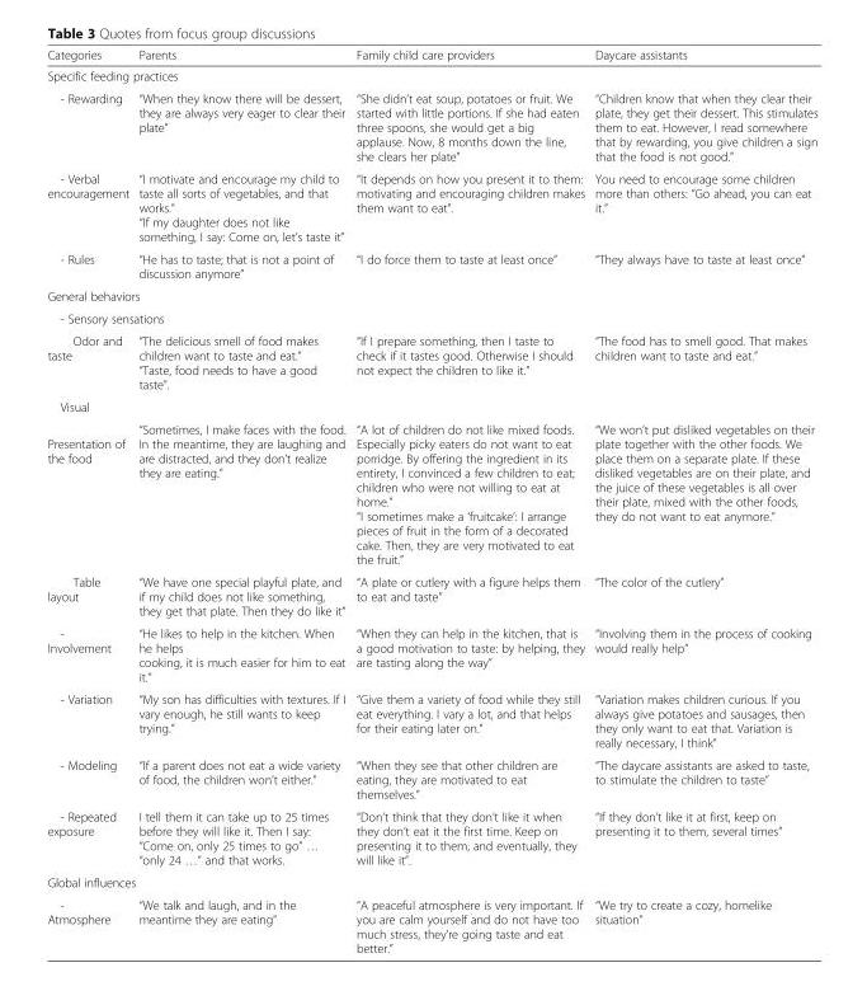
<table><thead><tr><td>Categories</td><td>Parents</td><td>Family child care providers</td><td>Daycare assistants</td></tr></thead><tbody><tr><td colspan="4">Specific feeding practices</td></tr><tr><td>- Rewarding</td><td>“When they know there will be dessert, they are always very eager to clear their plate”</td><td>“She didn’t eat soup, potatoes or fruit. We started with little portions. If she had eaten three spoons, she would get a big applause. Now, 8 months down the line, she clears her plate”</td><td>“Children know that when they clear their plate, they get their dessert. This stimulates them to eat. However, I read somewhere that by rewarding, you give children a sign that the food is not good.”</td></tr><tr><td>- Verbal encouragement</td><td>“I motivate and encourage my child to taste all sorts of vegetables, and that works.” “If my daughter does not like something, I say: Come on, let’s taste it”</td><td>“It depends on how you present it to them: motivating and encouraging children makes them want to eat”.</td><td>You need to encourage some children more than others: “Go ahead, you can eat it.”</td></tr><tr><td>- Rules</td><td>“He has to taste; that is not a point of discussion anymore”</td><td>“I do force them to taste at least once”</td><td>“They always have to taste at least once”</td></tr><tr><td colspan="4">General behaviors</td></tr><tr><td colspan="4">- Sensory sensations</td></tr><tr><td>Odor and taste</td><td>“The delicious smell of food makes children want to taste and eat.” “Taste, food needs to have a good taste”.</td><td>“If I prepare something, then I taste to check if it tastes good. Otherwise I should not expect the children to like it.”</td><td>“The food has to smell good. That makes children want to taste and eat.”</td></tr><tr><td colspan="4">Visual</td></tr><tr><td>Presentation of the food</td><td>“Sometimes, I make faces with the food. In the meantime, they are laughing and are distracted, and they don’t realize they are eating.”</td><td>“A lot of children do not like mixed foods. Especially picky eaters do not want to eat porridge. By offering the ingredient in its entirety, I convinced a few children to eat; children who were not willing to eat at home.” “I sometimes make a ‘fruitcake’: I arrange pieces of fruit in the form of a decorated cake. Then, they are very motivated to eat the fruit.”</td><td>“We won’t put disliked vegetables on their plate together with the other foods. We place them on a separate plate. If these disliked vegetables are on their plate, and the juice of these vegetables is all over their plate, mixed with the other foods, they do not want to eat anymore.”</td></tr><tr><td>Table layout</td><td>“We have one special playful plate, and if my child does not like something, they get that plate. Then they do like it”</td><td>“A plate or cutlery with a figure helps them to eat and taste”</td><td>“The color of the cutlery”</td></tr><tr><td>- Involvement</td><td>“He likes to help in the kitchen. When he helps cooking, it is much easier for him to eat it.”</td><td>“When they can help in the kitchen, that is a good motivation to taste: by helping, they are tasting along the way”</td><td>“Involving them in the process of cooking would really help”</td></tr><tr><td>- Variation</td><td>“My son has difficulties with textures. If I vary enough, he still wants to keep trying.”</td><td>“Give them a variety of food while they still eat everything. I vary a lot, and that helps for their eating later on.”</td><td>“Variation makes children curious. If you always give potatoes and sausages, then they only want to eat that. Variation is really necessary, I think”</td></tr><tr><td>- Modeling</td><td>“If a parent does not eat a wide variety of food, the children won’t either.”</td><td>“When they see that other children are eating, they are motivated to eat themselves.”</td><td>“The daycare assistants are asked to taste, to stimulate the children to taste”</td></tr><tr><td>- Repeated exposure</td><td>I tell them it can take up to 25 times before they will like it. Then I say: “Come on, only 25 times to go” … “only 24 …” and that works.</td><td>“Don’t think that they don’t like it when they don’t eat it the first time. Keep on presenting it to them, and eventually, they will like it”.</td><td>“If they don’t like it at first, keep on presenting it to them, several times”</td></tr><tr><td colspan="4">Global influences</td></tr><tr><td>- Atmosphere</td><td>“We talk and laugh, and in the meantime they are eating”</td><td>“A peaceful atmosphere is very important. If you are calm yourself and do not have too much stress, they’re going taste and eat better.”</td><td>“We try to create a cozy, homelike situation”</td></tr></tbody></table>